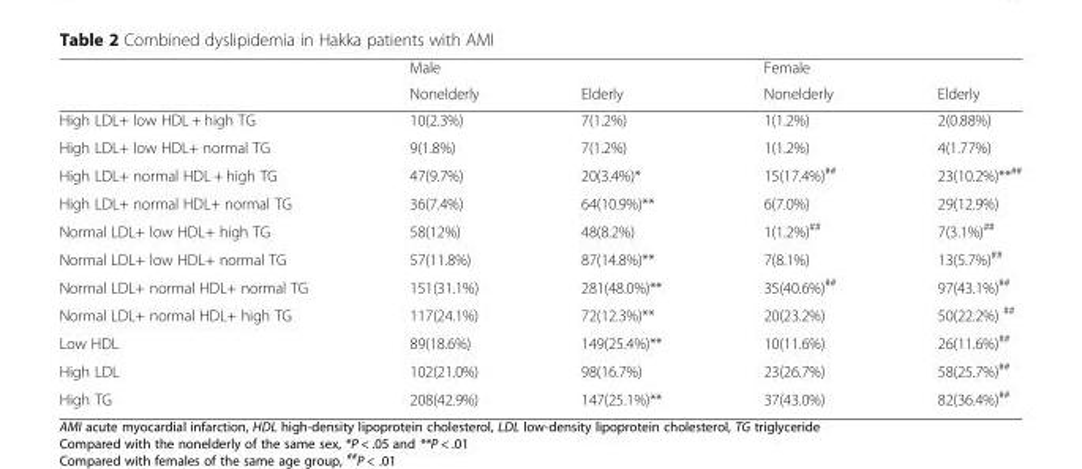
<table><thead><tr><td rowspan="2"></td><td rowspan="2">Male Nonelderly</td><td rowspan="2">Elderly</td><td rowspan="2">Female Nonelderly</td><td rowspan="2">Elderly</td></tr><tr></tr></thead><tbody><tr><td>High LDL+ low HDL + high TG</td><td>10(2.3%)</td><td>7(1.2%)</td><td>1(1.2%)</td><td>2(0.88%)</td></tr><tr><td>High LDL+ low HDL+ normal TG</td><td>9(1.8%)</td><td>7(1.2%)</td><td>1(1.2%)</td><td>4(1.77%)</td></tr><tr><td>High LDL+ normal HDL + high TG</td><td>47(9.7%)</td><td>20(3.4%)*</td><td>15(17.4%)<sup>##</sup></td><td>23(10.2%)**<sup>##</sup></td></tr><tr><td>High LDL+ normal HDL+ normal TG</td><td>36(7.4%)</td><td>64(10.9%)**</td><td>6(7.0%)</td><td>29(12.9%)</td></tr><tr><td>Normal LDL+ low HDL+ high TG</td><td>58(12%)</td><td>48(8.2%)</td><td>1(1.2%)<sup>##</sup></td><td>7(3.1%)<sup>##</sup></td></tr><tr><td>Normal LDL+ low HDL+ normal TG</td><td>57(11.8%)</td><td>87(14.8%)**</td><td>7(8.1%)</td><td>13(5.7%)<sup>##</sup></td></tr><tr><td>Normal LDL+ normal HDL+ normal TG</td><td>151(31.1%)</td><td>281(48.0%)**</td><td>35(40.6%)<sup>##</sup></td><td>97(43.1%)<sup>##</sup></td></tr><tr><td>Normal LDL+ normal HDL+ high TG</td><td>117(24.1%)</td><td>72(12.3%)**</td><td>20(23.2%)</td><td>50(22.2%) <sup>##</sup></td></tr><tr><td>Low HDL</td><td>89(18.6%)</td><td>149(25.4%)**</td><td>10(11.6%)</td><td>26(11.6%)<sup>##</sup></td></tr><tr><td>High LDL</td><td>102(21.0%)</td><td>98(16.7%)</td><td>23(26.7%)</td><td>58(25.7%)<sup>##</sup></td></tr><tr><td>High TG</td><td>208(42.9%)</td><td>147(25.1%)**</td><td>37(43.0%)</td><td>82(36.4%)<sup>##</sup></td></tr></tbody></table>